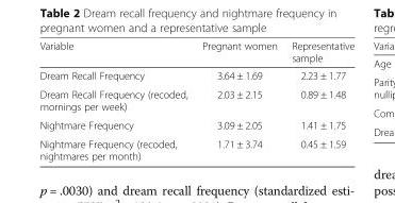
<table><thead><tr><td>Variable</td><td>Pregnant women</td><td>Representative sample</td></tr></thead><tbody><tr><td>Dream Recall Frequency</td><td>3.64 ± 1.69</td><td>2.23 ± 1.77</td></tr><tr><td>Dream Recall Frequency (recoded, mornings per week)</td><td>2.03 ± 2.15</td><td>0.89 ± 1.48</td></tr><tr><td>Nightmare Frequency</td><td>3.09 ± 2.05</td><td>1.41 ± 1.75</td></tr><tr><td>Nightmare Frequency (recoded, nightmares per month)</td><td>1.71 ± 3.74</td><td>0.45 ± 1.59</td></tr></tbody></table>